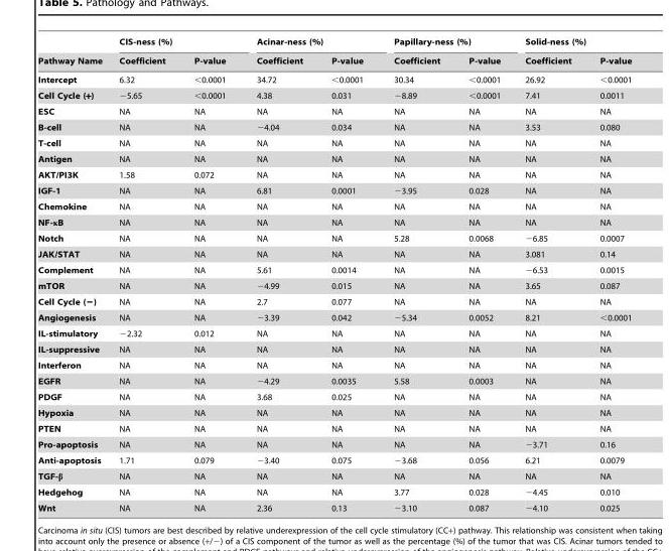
<table><thead><tr><td rowspan="2">Pathway Name</td><td colspan="2">CIS-ness (%)</td><td colspan="2">Acinar-ness (%)</td><td colspan="2">Papillary-ness (%)</td><td colspan="2">Solid-ness (%)</td></tr><tr><td>Coefficient</td><td>P-value</td><td>Coefficient</td><td>P-value</td><td>Coefficient</td><td>P-value</td><td>Coefficient</td><td>P-value</td></tr></thead><tbody><tr><td>Intercept</td><td>6.32</td><td>&lt;0.0001</td><td>34.72</td><td>&lt;0.0001</td><td>30.34</td><td>&lt;0.0001</td><td>26.92</td><td>&lt;0.0001</td></tr><tr><td>Cell Cycle (+)</td><td>−5.65</td><td>&lt;0.0001</td><td>4.38</td><td>0.031</td><td>−8.89</td><td>&lt;0.0001</td><td>7.41</td><td>0.0011</td></tr><tr><td>ESC</td><td>NA</td><td>NA</td><td>NA</td><td>NA</td><td>NA</td><td>NA</td><td>NA</td><td>NA</td></tr><tr><td>B-cell</td><td>NA</td><td>NA</td><td>−4.04</td><td>0.034</td><td>NA</td><td>NA</td><td>3.53</td><td>0.080</td></tr><tr><td>T-cell</td><td>NA</td><td>NA</td><td>NA</td><td>NA</td><td>NA</td><td>NA</td><td>NA</td><td>NA</td></tr><tr><td>Antigen</td><td>NA</td><td>NA</td><td>NA</td><td>NA</td><td>NA</td><td>NA</td><td>NA</td><td>NA</td></tr><tr><td>AKT/PI3K</td><td>1.58</td><td>0.072</td><td>NA</td><td>NA</td><td>NA</td><td>NA</td><td>NA</td><td>NA</td></tr><tr><td>IGF-1</td><td>NA</td><td>NA</td><td>6.81</td><td>0.0001</td><td>−3.95</td><td>0.028</td><td>NA</td><td>NA</td></tr><tr><td>Chemokine</td><td>NA</td><td>NA</td><td>NA</td><td>NA</td><td>NA</td><td>NA</td><td>NA</td><td>NA</td></tr><tr><td>NF-κB</td><td>NA</td><td>NA</td><td>NA</td><td>NA</td><td>NA</td><td>NA</td><td>NA</td><td>NA</td></tr><tr><td>Notch</td><td>NA</td><td>NA</td><td>NA</td><td>NA</td><td>5.28</td><td>0.0068</td><td>−6.85</td><td>0.0007</td></tr><tr><td>JAK/STAT</td><td>NA</td><td>NA</td><td>NA</td><td>NA</td><td>NA</td><td>NA</td><td>3.081</td><td>0.14</td></tr><tr><td>Complement</td><td>NA</td><td>NA</td><td>5.61</td><td>0.0014</td><td>NA</td><td>NA</td><td>−6.53</td><td>0.0015</td></tr><tr><td>mTOR</td><td>NA</td><td>NA</td><td>−4.99</td><td>0.015</td><td>NA</td><td>NA</td><td>3.65</td><td>0.087</td></tr><tr><td>Cell Cycle (−)</td><td>NA</td><td>NA</td><td>2.7</td><td>0.077</td><td>NA</td><td>NA</td><td>NA</td><td>NA</td></tr><tr><td>Angiogenesis</td><td>NA</td><td>NA</td><td>−3.39</td><td>0.042</td><td>−5.34</td><td>0.0052</td><td>8.21</td><td>&lt;0.0001</td></tr><tr><td>IL-stimulatory</td><td>−2.32</td><td>0.012</td><td>NA</td><td>NA</td><td>NA</td><td>NA</td><td>NA</td><td>NA</td></tr><tr><td>IL-suppressive</td><td>NA</td><td>NA</td><td>NA</td><td>NA</td><td>NA</td><td>NA</td><td>NA</td><td>NA</td></tr><tr><td>Interferon</td><td>NA</td><td>NA</td><td>NA</td><td>NA</td><td>NA</td><td>NA</td><td>NA</td><td>NA</td></tr><tr><td>EGFR</td><td>NA</td><td>NA</td><td>−4.29</td><td>0.0035</td><td>5.58</td><td>0.0003</td><td>NA</td><td>NA</td></tr><tr><td>PDGF</td><td>NA</td><td>NA</td><td>3.68</td><td>0.025</td><td>NA</td><td>NA</td><td>NA</td><td>NA</td></tr><tr><td>Hypoxia</td><td>NA</td><td>NA</td><td>NA</td><td>NA</td><td>NA</td><td>NA</td><td>NA</td><td>NA</td></tr><tr><td>PTEN</td><td>NA</td><td>NA</td><td>NA</td><td>NA</td><td>NA</td><td>NA</td><td>NA</td><td>NA</td></tr><tr><td>Pro-apoptosis</td><td>NA</td><td>NA</td><td>NA</td><td>NA</td><td>NA</td><td>NA</td><td>−3.71</td><td>0.16</td></tr><tr><td>Anti-apoptosis</td><td>1.71</td><td>0.079</td><td>−3.40</td><td>0.075</td><td>−3.68</td><td>0.056</td><td>6.21</td><td>0.0079</td></tr><tr><td>TGF-β</td><td>NA</td><td>NA</td><td>NA</td><td>NA</td><td>NA</td><td>NA</td><td>NA</td><td>NA</td></tr><tr><td>Hedgehog</td><td>NA</td><td>NA</td><td>NA</td><td>NA</td><td>3.77</td><td>0.028</td><td>−4.45</td><td>0.010</td></tr><tr><td>Wnt</td><td>NA</td><td>NA</td><td>2.36</td><td>0.13</td><td>−3.10</td><td>0.087</td><td>−4.10</td><td>0.025</td></tr></tbody></table>